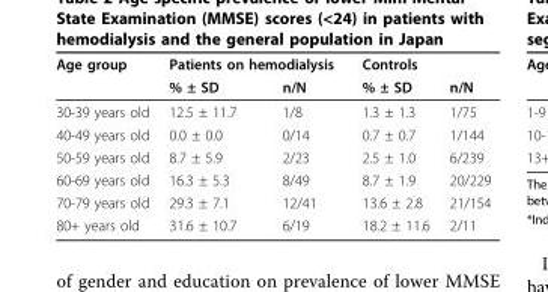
<table><thead><tr><td rowspan="2">Age group</td><td colspan="2">Patients on hemodialysis</td><td colspan="2">Controls</td></tr><tr><td>% ± SD</td><td>n/N</td><td>% ± SD</td><td>n/N</td></tr></thead><tbody><tr><td>30-39 years old</td><td>12.5 ± 11.7</td><td>1/8</td><td>1.3 ± 1.3</td><td>1/75</td></tr><tr><td>40-49 years old</td><td>0.0 ± 0.0</td><td>0/14</td><td>0.7 ± 0.7</td><td>1/144</td></tr><tr><td>50-59 years old</td><td>8.7 ± 5.9</td><td>2/23</td><td>2.5 ± 1.0</td><td>6/239</td></tr><tr><td>60-69 years old</td><td>16.3 ± 5.3</td><td>8/49</td><td>8.7 ± 1.9</td><td>20/229</td></tr><tr><td>70-79 years old</td><td>29.3 ± 7.1</td><td>12/41</td><td>13.6 ± 2.8</td><td>21/154</td></tr><tr><td>80+ years old</td><td>31.6 ± 10.7</td><td>6/19</td><td>18.2 ± 11.6</td><td>2/11</td></tr></tbody></table>